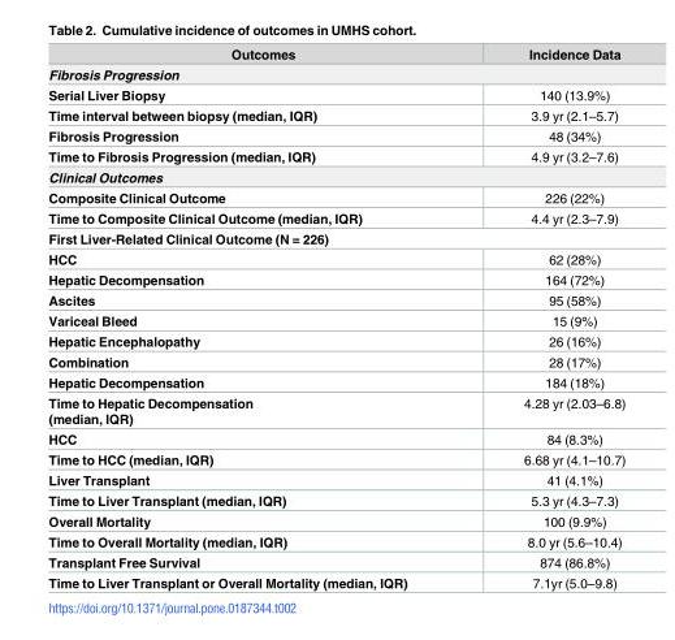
<table><thead><tr><td>Outcomes</td><td>Incidence Data</td></tr></thead><tbody><tr><td colspan="2">Fibrosis Progression</td></tr><tr><td>Serial Liver Biopsy</td><td>140 (13.9%)</td></tr><tr><td>Time interval between biopsy (median, IQR)</td><td>3.9 yr (2.1–5.7)</td></tr><tr><td>Fibrosis Progression</td><td>48 (34%)</td></tr><tr><td>Time to Fibrosis Progression (median, IQR)</td><td>4.9 yr (3.2–7.6)</td></tr><tr><td colspan="2">Clinical Outcomes</td></tr><tr><td>Composite Clinical Outcome</td><td>226 (22%)</td></tr><tr><td>Time to Composite Clinical Outcome (median, IQR)</td><td>4.4 yr (2.3–7.9)</td></tr><tr><td colspan="2">First Liver-Related Clinical Outcome (N = 226)</td></tr><tr><td>HCC</td><td>62 (28%)</td></tr><tr><td>Hepatic Decompensation</td><td>164 (72%)</td></tr><tr><td>Ascites</td><td>95 (58%)</td></tr><tr><td>Variceal Bleed</td><td>15 (9%)</td></tr><tr><td>Hepatic Encephalopathy</td><td>26 (16%)</td></tr><tr><td>Combination</td><td>28 (17%)</td></tr><tr><td>Hepatic Decompensation</td><td>184 (18%)</td></tr><tr><td>Time to Hepatic Decompensation (median, IQR)</td><td>4.28 yr (2.03–6.8)</td></tr><tr><td>HCC</td><td>84 (8.3%)</td></tr><tr><td>Time to HCC (median, IQR)</td><td>6.68 yr (4.1–10.7)</td></tr><tr><td>Liver Transplant</td><td>41 (4.1%)</td></tr><tr><td>Time to Liver Transplant (median, IQR)</td><td>5.3 yr (4.3–7.3)</td></tr><tr><td>Overall Mortality</td><td>100 (9.9%)</td></tr><tr><td>Time to Overall Mortality (median, IQR)</td><td>8.0 yr (5.6–10.4)</td></tr><tr><td>Transplant Free Survival</td><td>874 (86.8%)</td></tr><tr><td>Time to Liver Transplant or Overall Mortality (median, IQR)</td><td>7.1yr (5.0–9.8)</td></tr></tbody></table>